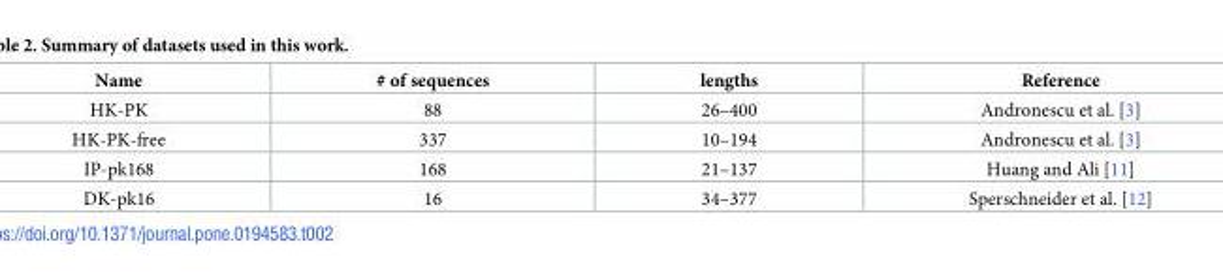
<table><thead><tr><td>Name</td><td># of sequences</td><td>lengths</td><td>Reference</td></tr></thead><tbody><tr><td>HK-PK</td><td>88</td><td>26–400</td><td>Andronescu et al. [3]</td></tr><tr><td>HK-PK-free</td><td>337</td><td>10–194</td><td>Andronescu et al. [3]</td></tr><tr><td>IP-pk168</td><td>168</td><td>21–137</td><td>Huang and Ali [11]</td></tr><tr><td>DK-pk16</td><td>16</td><td>34–377</td><td>Sperschneider et al. [12]</td></tr></tbody></table>